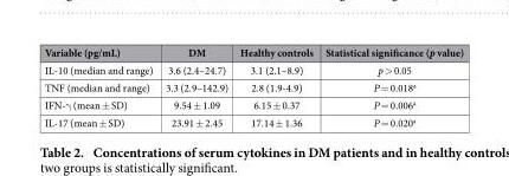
<table><thead><tr><td>Variable (pg/mL)</td><td>DM</td><td>Healthy controls</td><td>Statistical significance (p value)</td></tr></thead><tbody><tr><td>IL-10 (median and range)</td><td>3.6 (2.4–24.7)</td><td>3.1 (2.1–8.9)</td><td>p &gt; 0.05</td></tr><tr><td>TNF (median and range)</td><td>3.3 (2.9–142.9)</td><td>2.8 (1.9-4.9)</td><td>P = 0.018<sup>a</sup></td></tr><tr><td>IFN-γ (mean ± SD)</td><td>9.54 ± 1.09</td><td>6.15 ± 0.37</td><td>P = 0.006<sup>a</sup></td></tr><tr><td>IL-17 (mean ± SD)</td><td>23.91 ± 2.45</td><td>17.14 ± 1.36</td><td>P = 0.020<sup>a</sup></td></tr></tbody></table>